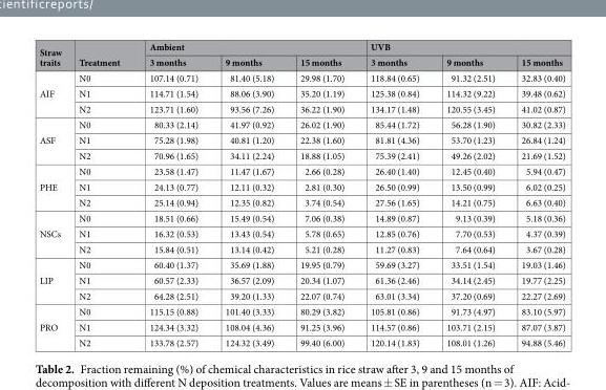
<table><thead><tr><td rowspan="2">Straw traits</td><td rowspan="2">Treatment</td><td colspan="3">Ambient</td><td colspan="3">UVB</td></tr><tr><td>3 months</td><td>9 months</td><td>15 months</td><td>3 months</td><td>9 months</td><td>15 months</td></tr></thead><tbody><tr><td rowspan="3">AIF</td><td>N0</td><td>107.14 (0.71)</td><td>81.40 (5.18)</td><td>29.98 (1.70)</td><td>118.84 (0.65)</td><td>91.32 (2.51)</td><td>32.83 (0.40)</td></tr><tr><td>N1</td><td>114.71 (1.54)</td><td>88.06 (3.90)</td><td>35.20 (1.19)</td><td>125.38 (0.84)</td><td>114.32 (9.22)</td><td>39.48 (0.62)</td></tr><tr><td>N2</td><td>123.71 (1.60)</td><td>93.56 (7.26)</td><td>36.22 (1.90)</td><td>134.17 (1.48)</td><td>120.55 (3.45)</td><td>41.02 (0.87)</td></tr><tr><td rowspan="3">ASF</td><td>N0</td><td>80.33 (2.14)</td><td>41.97 (0.92)</td><td>26.02 (1.90)</td><td>85.44 (1.72)</td><td>56.28 (1.90)</td><td>30.82 (2.33)</td></tr><tr><td>N1</td><td>75.28 (1.98)</td><td>40.81 (1.20)</td><td>22.38 (1.60)</td><td>81.81 (4.36)</td><td>53.70 (1.23)</td><td>26.84 (1.24)</td></tr><tr><td>N2</td><td>70.96 (1.65)</td><td>34.11 (2.24)</td><td>18.88 (1.05)</td><td>75.39 (2.41)</td><td>49.26 (2.02)</td><td>21.69 (1.52)</td></tr><tr><td rowspan="3">PHE</td><td>N0</td><td>23.58 (1.47)</td><td>11.47 (1.67)</td><td>2.66 (0.28)</td><td>26.40 (1.40)</td><td>12.45 (0.40)</td><td>5.94 (0.47)</td></tr><tr><td>N1</td><td>24.13 (0.77)</td><td>12.11 (0.32)</td><td>2.81 (0.30)</td><td>26.50 (0.99)</td><td>13.50 (0.99)</td><td>6.02 (0.25)</td></tr><tr><td>N2</td><td>25.14 (0.94)</td><td>12.35 (0.82)</td><td>3.74 (0.54)</td><td>27.56 (1.65)</td><td>14.21 (0.75)</td><td>6.63 (0.40)</td></tr><tr><td rowspan="3">NSCs</td><td>N0</td><td>18.51 (0.66)</td><td>15.49 (0.54)</td><td>7.06 (0.38)</td><td>14.89 (0.87)</td><td>9.13 (0.39)</td><td>5.18 (0.36)</td></tr><tr><td>N1</td><td>16.32 (0.53)</td><td>13.43 (0.54)</td><td>5.78 (0.65)</td><td>12.85 (0.76)</td><td>7.70 (0.53)</td><td>4.37 (0.39)</td></tr><tr><td>N2</td><td>15.84 (0.51)</td><td>13.14 (0.42)</td><td>5.21 (0.28)</td><td>11.27 (0.83)</td><td>7.64 (0.64)</td><td>3.67 (0.28)</td></tr><tr><td rowspan="3">LIP</td><td>N0</td><td>60.40 (1.37)</td><td>35.69 (1.88)</td><td>19.95 (0.79)</td><td>59.69 (3.27)</td><td>33.51 (1.54)</td><td>19.03 (1.46)</td></tr><tr><td>N1</td><td>60.57 (2.33)</td><td>36.57 (2.09)</td><td>20.34 (1.07)</td><td>61.36 (2.46)</td><td>34.14 (2.45)</td><td>19.77 (2.25)</td></tr><tr><td>N2</td><td>64.28 (2.51)</td><td>39.20 (1.33)</td><td>22.07 (0.74)</td><td>63.01 (3.34)</td><td>37.20 (0.69)</td><td>22.27 (2.69)</td></tr><tr><td rowspan="3">PRO</td><td>N0</td><td>115.15 (0.88)</td><td>101.40 (3.33)</td><td>80.29 (3.82)</td><td>105.81 (0.86)</td><td>91.73 (4.97)</td><td>83.10 (5.97)</td></tr><tr><td>N1</td><td>124.34 (3.32)</td><td>108.04 (4.36)</td><td>91.25 (3.96)</td><td>114.57 (0.86)</td><td>103.71 (2.15)</td><td>87.07 (3.87)</td></tr><tr><td>N2</td><td>133.78 (2.57)</td><td>124.32 (3.49)</td><td>99.40 (6.00)</td><td>120.14 (1.83)</td><td>108.01 (1.26)</td><td>94.88 (5.46)</td></tr></tbody></table>